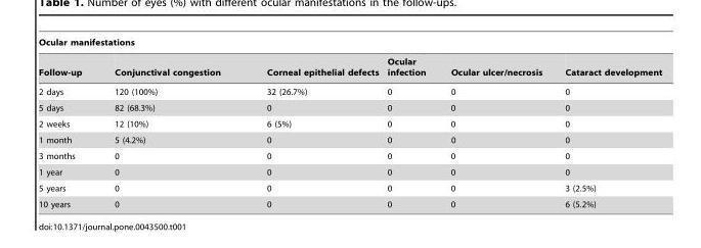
<table><thead><tr><td colspan="6">Ocular manifestations</td></tr><tr><td>Follow-up</td><td>Conjunctival congestion</td><td>Corneal epithelial defects</td><td>Ocular infection</td><td>Ocular ulcer/necrosis</td><td>Cataract development</td></tr></thead><tbody><tr><td>2 days</td><td>120 (100%)</td><td>32 (26.7%)</td><td>0</td><td>0</td><td>0</td></tr><tr><td>5 days</td><td>82 (68.3%)</td><td>0</td><td>0</td><td>0</td><td>0</td></tr><tr><td>2 weeks</td><td>12 (10%)</td><td>6 (5%)</td><td>0</td><td>0</td><td>0</td></tr><tr><td>1 month</td><td>5 (4.2%)</td><td>0</td><td>0</td><td>0</td><td>0</td></tr><tr><td>3 months</td><td>0</td><td>0</td><td>0</td><td>0</td><td>0</td></tr><tr><td>1 year</td><td>0</td><td>0</td><td>0</td><td>0</td><td>0</td></tr><tr><td>5 years</td><td>0</td><td>0</td><td>0</td><td>0</td><td>3 (2.5%)</td></tr><tr><td>10 years</td><td>0</td><td>0</td><td>0</td><td>0</td><td>6 (5.2%)</td></tr></tbody></table>